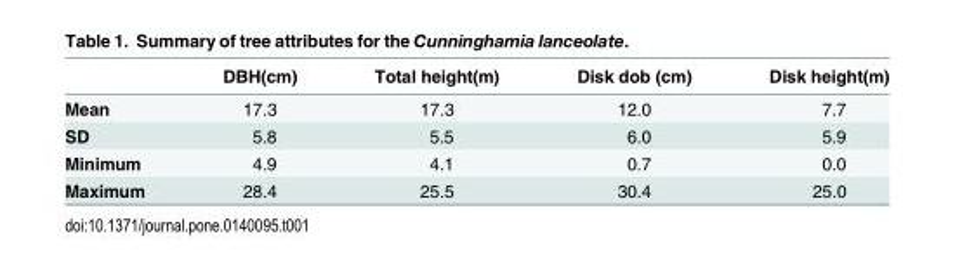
<table><thead><tr><td></td><td>DBH(cm)</td><td>Total height(m)</td><td>Disk dob (cm)</td><td>Disk height(m)</td></tr></thead><tbody><tr><td>Mean</td><td>17.3</td><td>17.3</td><td>12.0</td><td>7.7</td></tr><tr><td>SD</td><td>5.8</td><td>5.5</td><td>6.0</td><td>5.9</td></tr><tr><td>Minimum</td><td>4.9</td><td>4.1</td><td>0.7</td><td>0.0</td></tr><tr><td>Maximum</td><td>28.4</td><td>25.5</td><td>30.4</td><td>25.0</td></tr></tbody></table>